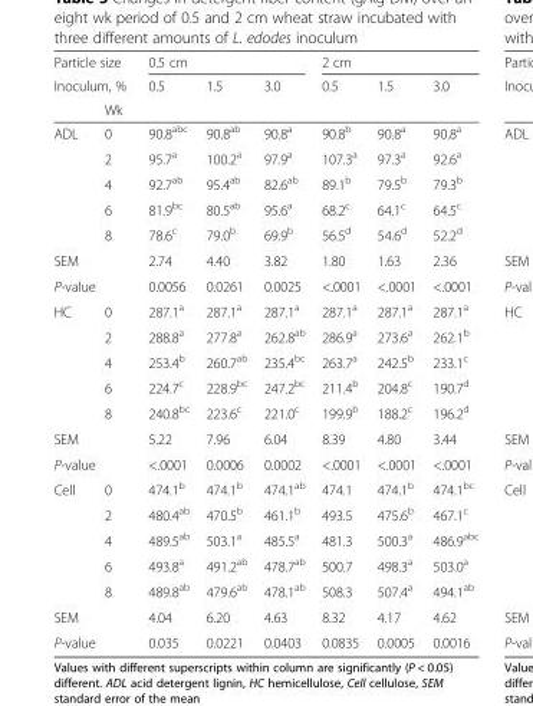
<table><thead><tr><td rowspan="2" colspan="2">Particle size Inoculum, %</td><td colspan="3">0.5 cm</td><td colspan="3">2 cm</td></tr><tr><td rowspan="2">0.5</td><td rowspan="2">1.5</td><td rowspan="2">3.0</td><td rowspan="2">0.5</td><td rowspan="2">1.5</td><td rowspan="2">3.0</td></tr><tr><td></td><td>Wk</td></tr></thead><tbody><tr><td rowspan="5">ADL</td><td>0</td><td>90.8<sup>abc</sup></td><td>90.8<sup>ab</sup></td><td>90.8<sup>a</sup></td><td>90.8<sup>b</sup></td><td>90.8<sup>a</sup></td><td>90.8<sup>a</sup></td></tr><tr><td>2</td><td>95.7<sup>a</sup></td><td>100.2<sup>a</sup></td><td>97.9<sup>a</sup></td><td>107.3<sup>a</sup></td><td>97.3<sup>a</sup></td><td>92.6<sup>a</sup></td></tr><tr><td>4</td><td>92.7<sup>ab</sup></td><td>95.4<sup>ab</sup></td><td>82.6<sup>ab</sup></td><td>89.1<sup>b</sup></td><td>79.5<sup>b</sup></td><td>79.3<sup>b</sup></td></tr><tr><td>6</td><td>81.9<sup>bc</sup></td><td>80.5<sup>ab</sup></td><td>95.6<sup>a</sup></td><td>68.2<sup>c</sup></td><td>64.1<sup>c</sup></td><td>64.5<sup>c</sup></td></tr><tr><td>8</td><td>78.6<sup>c</sup></td><td>79.0<sup>b</sup></td><td>69.9<sup>b</sup></td><td>56.5<sup>d</sup></td><td>54.6<sup>d</sup></td><td>52.2<sup>d</sup></td></tr><tr><td colspan="2">SEM</td><td>2.74</td><td>4.40</td><td>3.82</td><td>1.80</td><td>1.63</td><td>2.36</td></tr><tr><td colspan="2">P-value</td><td>0.0056</td><td>0.0261</td><td>0.0025</td><td>&lt;.0001</td><td>&lt;.0001</td><td>&lt;.0001</td></tr><tr><td rowspan="5">HC</td><td>0</td><td>287.1<sup>a</sup></td><td>287.1<sup>a</sup></td><td>287.1<sup>a</sup></td><td>287.1<sup>a</sup></td><td>287.1<sup>a</sup></td><td>287.1<sup>a</sup></td></tr><tr><td>2</td><td>288.8<sup>a</sup></td><td>277.8<sup>a</sup></td><td>262.8<sup>ab</sup></td><td>286.9<sup>a</sup></td><td>273.6<sup>a</sup></td><td>262.1<sup>b</sup></td></tr><tr><td>4</td><td>253.4<sup>b</sup></td><td>260.7<sup>ab</sup></td><td>235.4<sup>bc</sup></td><td>263.7<sup>a</sup></td><td>242.5<sup>b</sup></td><td>233.1<sup>c</sup></td></tr><tr><td>6</td><td>224.7<sup>c</sup></td><td>228.9<sup>bc</sup></td><td>247.2<sup>bc</sup></td><td>211.4<sup>b</sup></td><td>204.8<sup>c</sup></td><td>190.7<sup>d</sup></td></tr><tr><td>8</td><td>240.8<sup>bc</sup></td><td>223.6<sup>c</sup></td><td>221.0<sup>c</sup></td><td>199.9<sup>b</sup></td><td>188.2<sup>c</sup></td><td>196.2<sup>d</sup></td></tr><tr><td colspan="2">SEM</td><td>5.22</td><td>7.96</td><td>6.04</td><td>8.39</td><td>4.80</td><td>3.44</td></tr><tr><td colspan="2">P-value</td><td>&lt;.0001</td><td>0.0006</td><td>0.0002</td><td>&lt;.0001</td><td>&lt;.0001</td><td>&lt;.0001</td></tr><tr><td rowspan="5">Cell</td><td>0</td><td>474.1<sup>b</sup></td><td>474.1<sup>b</sup></td><td>474.1<sup>ab</sup></td><td>474.1</td><td>474.1<sup>b</sup></td><td>474.1<sup>bc</sup></td></tr><tr><td>2</td><td>480.4<sup>ab</sup></td><td>470.5<sup>b</sup></td><td>461.1<sup>b</sup></td><td>493.5</td><td>475.6<sup>b</sup></td><td>467.1<sup>c</sup></td></tr><tr><td>4</td><td>489.5<sup>ab</sup></td><td>503.1<sup>a</sup></td><td>485.5<sup>a</sup></td><td>481.3</td><td>500.3<sup>a</sup></td><td>486.9<sup>abc</sup></td></tr><tr><td>6</td><td>493.8<sup>a</sup></td><td>491.2<sup>ab</sup></td><td>478.7<sup>ab</sup></td><td>500.7</td><td>498.3<sup>a</sup></td><td>503.0<sup>a</sup></td></tr><tr><td>8</td><td>489.8<sup>ab</sup></td><td>479.6<sup>ab</sup></td><td>478.1<sup>ab</sup></td><td>508.3</td><td>507.4<sup>a</sup></td><td>494.1<sup>ab</sup></td></tr><tr><td colspan="2">SEM</td><td>4.04</td><td>6.20</td><td>4.63</td><td>8.32</td><td>4.17</td><td>4.62</td></tr><tr><td colspan="2">P-value</td><td>0.035</td><td>0.0221</td><td>0.0403</td><td>0.0835</td><td>0.0005</td><td>0.0016</td></tr></tbody></table>